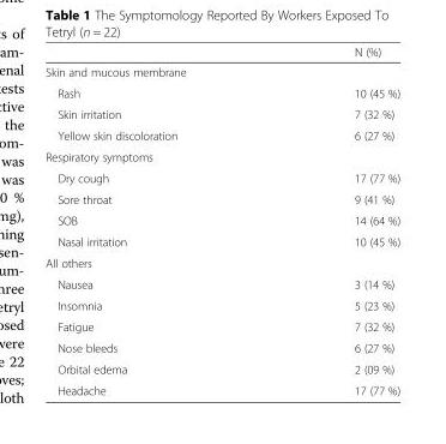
<table><thead><tr><td></td><td>N (%)</td></tr></thead><tbody><tr><td colspan="2">Skin and mucous membrane</td></tr><tr><td>Rash</td><td>10 (45 %)</td></tr><tr><td>Skin irritation</td><td>7 (32 %)</td></tr><tr><td>Yellow skin discoloration</td><td>6 (27 %)</td></tr><tr><td colspan="2">Respiratory symptoms</td></tr><tr><td>Dry cough</td><td>17 (77 %)</td></tr><tr><td>Sore throat</td><td>9 (41 %)</td></tr><tr><td>SOB</td><td>14 (64 %)</td></tr><tr><td>Nasal irritation</td><td>10 (45 %)</td></tr><tr><td colspan="2">All others</td></tr><tr><td>Nausea</td><td>3 (14 %)</td></tr><tr><td>Insomnia</td><td>5 (23 %)</td></tr><tr><td>Fatigue</td><td>7 (32 %)</td></tr><tr><td>Nose bleeds</td><td>6 (27 %)</td></tr><tr><td>Orbital edema</td><td>2 (09 %)</td></tr><tr><td>Headache</td><td>17 (77 %)</td></tr></tbody></table>